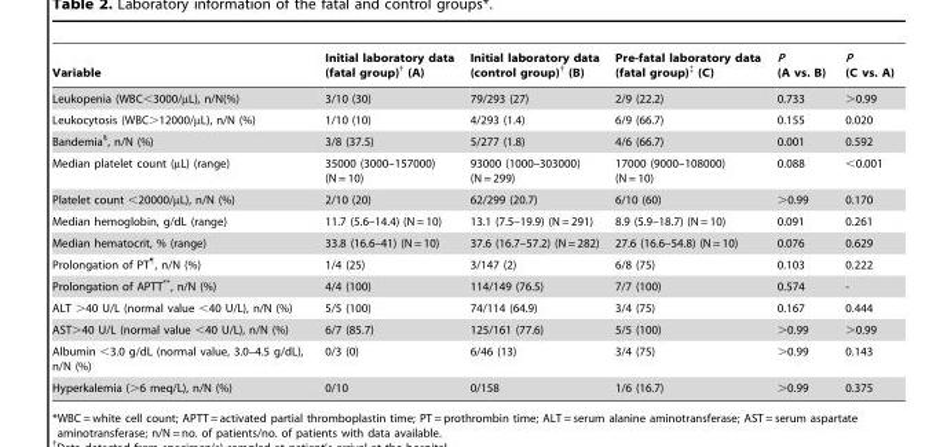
<table><thead><tr><td>Variable</td><td>Initial laboratory data (fatal group)† (A)</td><td>Initial laboratory data (control group)† (B)</td><td>Pre-fatal laboratory data (fatal group)‡ (C)</td><td>P (A vs. B)</td><td>P (C vs. A)</td></tr></thead><tbody><tr><td>Leukopenia (WBC&lt;3000/µL), n/N(%)</td><td>3/10 (30)</td><td>79/293 (27)</td><td>2/9 (22.2)</td><td>0.733</td><td>&gt;0.99</td></tr><tr><td>Leukocytosis (WBC&gt;12000/µL), n/N (%)</td><td>1/10 (10)</td><td>4/293 (1.4)</td><td>6/9 (66.7)</td><td>0.155</td><td>0.020</td></tr><tr><td>Bandemia§, n/N (%)</td><td>3/8 (37.5)</td><td>5/277 (1.8)</td><td>4/6 (66.7)</td><td>0.001</td><td>0.592</td></tr><tr><td>Median platelet count (µL) (range)</td><td>35000 (3000–157000) (N = 10)</td><td>93000 (1000–303000) (N = 299)</td><td>17000 (9000–108000) (N = 10)</td><td>0.088</td><td>&lt;0.001</td></tr><tr><td>Platelet count &lt;20000/µL), n/N (%)</td><td>2/10 (20)</td><td>62/299 (20.7)</td><td>6/10 (60)</td><td>&gt;0.99</td><td>0.170</td></tr><tr><td>Median hemoglobin, g/dL (range)</td><td>11.7 (5.6–14.4) (N = 10)</td><td>13.1 (7.5–19.9) (N = 291)</td><td>8.9 (5.9–18.7) (N = 10)</td><td>0.091</td><td>0.261</td></tr><tr><td>Median hematocrit, % (range)</td><td>33.8 (16.6–41) (N = 10)</td><td>37.6 (16.7–57.2) (N = 282)</td><td>27.6 (16.6–54.8) (N = 10)</td><td>0.076</td><td>0.629</td></tr><tr><td>Prolongation of PT¶, n/N (%)</td><td>1/4 (25)</td><td>3/147 (2)</td><td>6/8 (75)</td><td>0.103</td><td>0.222</td></tr><tr><td>Prolongation of APTT**, n/N (%)</td><td>4/4 (100)</td><td>114/149 (76.5)</td><td>7/7 (100)</td><td>0.574</td><td>-</td></tr><tr><td>ALT &gt;40 U/L (normal value &lt;40 U/L), n/N (%)</td><td>5/5 (100)</td><td>74/114 (64.9)</td><td>3/4 (75)</td><td>0.167</td><td>0.444</td></tr><tr><td>AST&gt;40 U/L (normal value &lt;40 U/L), n/N (%)</td><td>6/7 (85.7)</td><td>125/161 (77.6)</td><td>5/5 (100)</td><td>&gt;0.99</td><td>&gt;0.99</td></tr><tr><td>Albumin &lt;3.0 g/dL (normal value, 3.0–4.5 g/dL), n/N (%)</td><td>0/3 (0)</td><td>6/46 (13)</td><td>3/4 (75)</td><td>&gt;0.99</td><td>0.143</td></tr><tr><td>Hyperkalemia (&gt;6 meq/L), n/N (%)</td><td>0/10</td><td>0/158</td><td>1/6 (16.7)</td><td>&gt;0.99</td><td>0.375</td></tr></tbody></table>